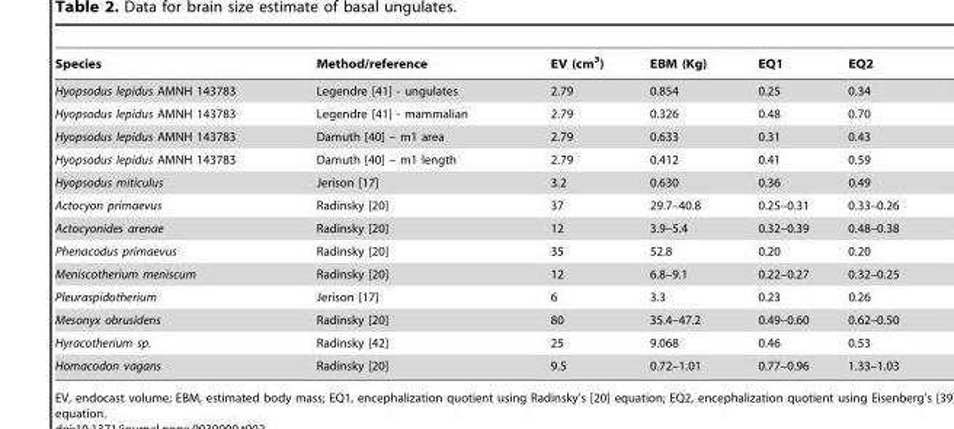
<table><thead><tr><td>Species</td><td>Method/reference</td><td>EV (cm<sup>3</sup>)</td><td>EBM (Kg)</td><td>EQ1</td><td>EQ2</td></tr></thead><tbody><tr><td>Hyopsodus lepidus AMNH 143783</td><td>Legendre [41] - ungulates</td><td>2.79</td><td>0.854</td><td>0.25</td><td>0.34</td></tr><tr><td>Hyopsodus lepidus AMNH 143783</td><td>Legendre [41] - mammalian</td><td>2.79</td><td>0.326</td><td>0.48</td><td>0.70</td></tr><tr><td>Hyopsodus lepidus AMNH 143783</td><td>Damuth [40] – m1 area</td><td>2.79</td><td>0.633</td><td>0.31</td><td>0.43</td></tr><tr><td>Hyopsodus lepidus AMNH 143783</td><td>Damuth [40] – m1 length</td><td>2.79</td><td>0.412</td><td>0.41</td><td>0.59</td></tr><tr><td>Hyopsodus miticulus</td><td>Jerison [17]</td><td>3.2</td><td>0.630</td><td>0.36</td><td>0.49</td></tr><tr><td>Actocyon primaevus</td><td>Radinsky [20]</td><td>37</td><td>29.7–40.8</td><td>0.25–0.31</td><td>0.33–0.26</td></tr><tr><td>Actocyonides arenae</td><td>Radinsky [20]</td><td>12</td><td>3.9–5.4</td><td>0.32–0.39</td><td>0.48–0.38</td></tr><tr><td>Phenacodus primaevus</td><td>Radinsky [20]</td><td>35</td><td>52.8</td><td>0.20</td><td>0.20</td></tr><tr><td>Meniscotherium meniscum</td><td>Radinsky [20]</td><td>12</td><td>6.8–9.1</td><td>0.22–0.27</td><td>0.32–0.25</td></tr><tr><td>Pleuraspidotherium</td><td>Jerison [17]</td><td>6</td><td>3.3</td><td>0.23</td><td>0.26</td></tr><tr><td>Mesonyx obrusidens</td><td>Radinsky [20]</td><td>80</td><td>35.4–47.2</td><td>0.49–0.60</td><td>0.62–0.50</td></tr><tr><td>Hyracotherium sp.</td><td>Radinsky [42]</td><td>25</td><td>9.068</td><td>0.46</td><td>0.53</td></tr><tr><td>Homacodon vagans</td><td>Radinsky [20]</td><td>9.5</td><td>0.72–1.01</td><td>0.77–0.96</td><td>1.33–1.03</td></tr></tbody></table>